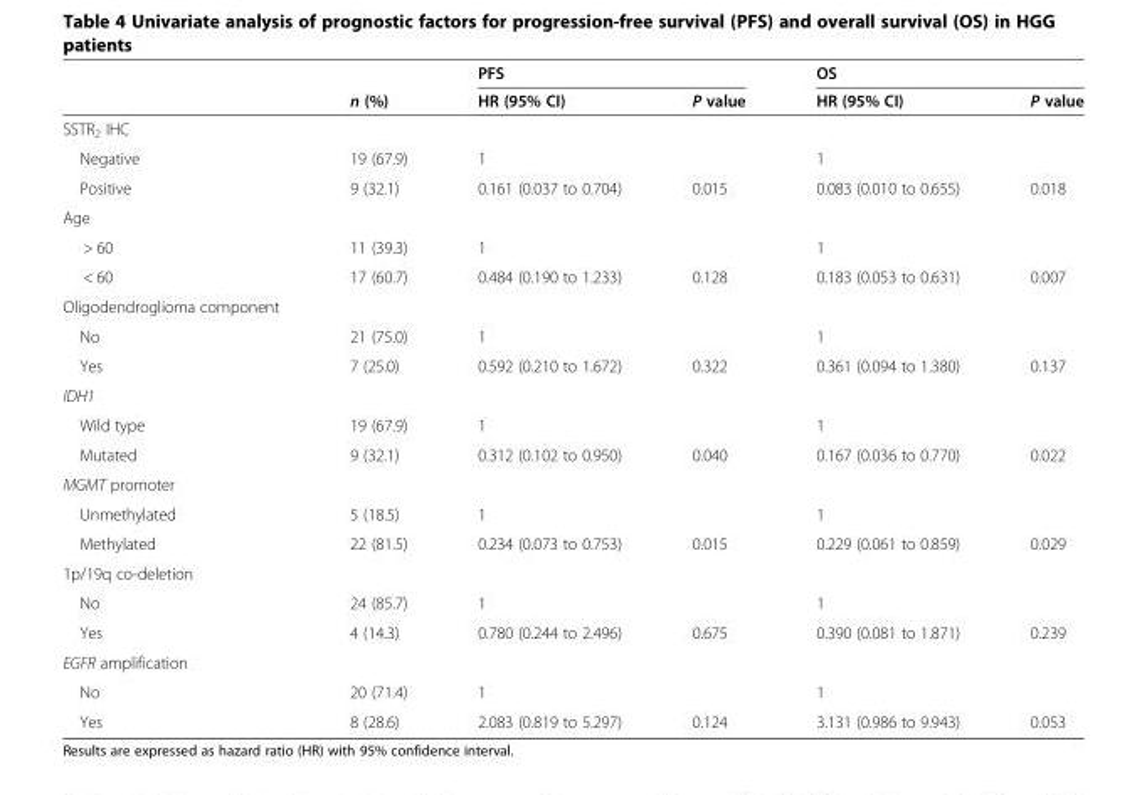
<table><thead><tr><td rowspan="2"></td><td rowspan="2">n (%)</td><td colspan="2">PFS</td><td colspan="2">OS</td></tr><tr><td>HR (95% CI)</td><td>P value</td><td>HR (95% CI)</td><td>P value</td></tr></thead><tbody><tr><td colspan="6">SSTR<sub>2</sub> IHC</td></tr><tr><td>Negative</td><td>19 (67.9)</td><td>1</td><td></td><td>1</td><td></td></tr><tr><td>Positive</td><td>9 (32.1)</td><td>0.161 (0.037 to 0.704)</td><td>0.015</td><td>0.083 (0.010 to 0.655)</td><td>0.018</td></tr><tr><td colspan="6">Age</td></tr><tr><td>&gt; 60</td><td>11 (39.3)</td><td>1</td><td></td><td>1</td><td></td></tr><tr><td>&lt; 60</td><td>17 (60.7)</td><td>0.484 (0.190 to 1.233)</td><td>0.128</td><td>0.183 (0.053 to 0.631)</td><td>0.007</td></tr><tr><td colspan="6">Oligodendroglioma component</td></tr><tr><td>No</td><td>21 (75.0)</td><td>1</td><td></td><td>1</td><td></td></tr><tr><td>Yes</td><td>7 (25.0)</td><td>0.592 (0.210 to 1.672)</td><td>0.322</td><td>0.361 (0.094 to 1.380)</td><td>0.137</td></tr><tr><td colspan="6">IDH1</td></tr><tr><td>Wild type</td><td>19 (67.9)</td><td>1</td><td></td><td>1</td><td></td></tr><tr><td>Mutated</td><td>9 (32.1)</td><td>0.312 (0.102 to 0.950)</td><td>0.040</td><td>0.167 (0.036 to 0.770)</td><td>0.022</td></tr><tr><td colspan="6">MGMT promoter</td></tr><tr><td>Unmethylated</td><td>5 (18.5)</td><td>1</td><td></td><td>1</td><td></td></tr><tr><td>Methylated</td><td>22 (81.5)</td><td>0.234 (0.073 to 0.753)</td><td>0.015</td><td>0.229 (0.061 to 0.859)</td><td>0.029</td></tr><tr><td colspan="6">1p/19q co-deletion</td></tr><tr><td>No</td><td>24 (85.7)</td><td>1</td><td></td><td>1</td><td></td></tr><tr><td>Yes</td><td>4 (14.3)</td><td>0.780 (0.244 to 2.496)</td><td>0.675</td><td>0.390 (0.081 to 1.871)</td><td>0.239</td></tr><tr><td colspan="6">EGFR amplification</td></tr><tr><td>No</td><td>20 (71.4)</td><td>1</td><td></td><td>1</td><td></td></tr><tr><td>Yes</td><td>8 (28.6)</td><td>2.083 (0.819 to 5.297)</td><td>0.124</td><td>3.131 (0.986 to 9.943)</td><td>0.053</td></tr></tbody></table>